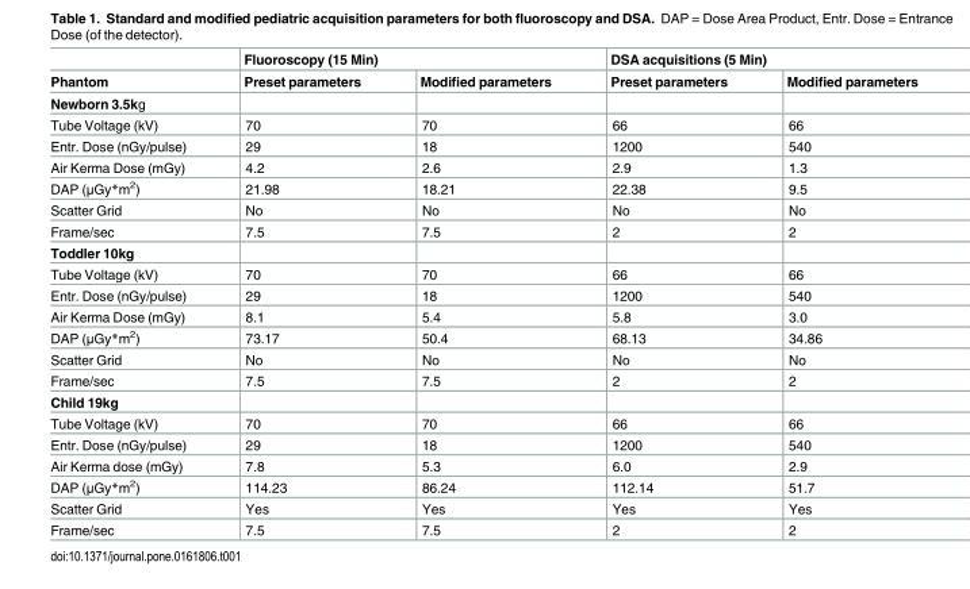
<table><thead><tr><td rowspan="2">Phantom</td><td colspan="2">Fluoroscopy (15 Min)</td><td colspan="2">DSA acquisitions (5 Min)</td></tr><tr><td>Preset parameters</td><td>Modified parameters</td><td>Preset parameters</td><td>Modified parameters</td></tr></thead><tbody><tr><td colspan="5">Newborn 3.5kg</td></tr><tr><td>Tube Voltage (kV)</td><td>70</td><td>70</td><td>66</td><td>66</td></tr><tr><td>Entr. Dose (nGy/pulse)</td><td>29</td><td>18</td><td>1200</td><td>540</td></tr><tr><td>Air Kerma Dose (mGy)</td><td>4.2</td><td>2.6</td><td>2.9</td><td>1.3</td></tr><tr><td>DAP (μGy*m<sup>2</sup>)</td><td>21.98</td><td>18.21</td><td>22.38</td><td>9.5</td></tr><tr><td>Scatter Grid</td><td>No</td><td>No</td><td>No</td><td>No</td></tr><tr><td>Frame/sec</td><td>7.5</td><td>7.5</td><td>2</td><td>2</td></tr><tr><td colspan="5">Toddler 10kg</td></tr><tr><td>Tube Voltage (kV)</td><td>70</td><td>70</td><td>66</td><td>66</td></tr><tr><td>Entr. Dose (nGy/pulse)</td><td>29</td><td>18</td><td>1200</td><td>540</td></tr><tr><td>Air Kerma Dose (mGy)</td><td>8.1</td><td>5.4</td><td>5.8</td><td>3.0</td></tr><tr><td>DAP (μGy*m<sup>2</sup>)</td><td>73.17</td><td>50.4</td><td>68.13</td><td>34.86</td></tr><tr><td>Scatter Grid</td><td>No</td><td>No</td><td>No</td><td>No</td></tr><tr><td>Frame/sec</td><td>7.5</td><td>7.5</td><td>2</td><td>2</td></tr><tr><td colspan="5">Child 19kg</td></tr><tr><td>Tube Voltage (kV)</td><td>70</td><td>70</td><td>66</td><td>66</td></tr><tr><td>Entr. Dose (nGy/pulse)</td><td>29</td><td>18</td><td>1200</td><td>540</td></tr><tr><td>Air Kerma dose (mGy)</td><td>7.8</td><td>5.3</td><td>6.0</td><td>2.9</td></tr><tr><td>DAP (μGy*m<sup>2</sup>)</td><td>114.23</td><td>86.24</td><td>112.14</td><td>51.7</td></tr><tr><td>Scatter Grid</td><td>Yes</td><td>Yes</td><td>Yes</td><td>Yes</td></tr><tr><td>Frame/sec</td><td>7.5</td><td>7.5</td><td>2</td><td>2</td></tr></tbody></table>